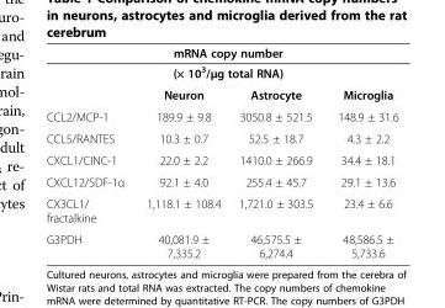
<table><thead><tr><td rowspan="2" colspan="4">mRNA copy number (× 10<sup>3</sup>/μg total RNA)</td></tr><tr></tr><tr><td></td><td>Neuron</td><td>Astrocyte</td><td>Microglia</td></tr></thead><tbody><tr><td>CCL2/MCP-1</td><td>189.9 ± 9.8</td><td>3050.8 ± 521.5</td><td>148.9 ± 31.6</td></tr><tr><td>CCL5/RANTES</td><td>10.3 ± 0.7</td><td>52.5 ± 18.7</td><td>4.3 ± 2.2</td></tr><tr><td>CXCL1/CINC-1</td><td>22.0 ± 2.2</td><td>1410.0 ± 266.9</td><td>34.4 ± 18.1</td></tr><tr><td>CXCL12/SDF-1α</td><td>92.1 ± 4.0</td><td>255.4 ± 45.7</td><td>29.1 ± 13.6</td></tr><tr><td>CX3CL1/ fractalkine</td><td>1,118.1 ± 108.4</td><td>1,721.0 ± 303.5</td><td>23.4 ± 6.6</td></tr><tr><td>G3PDH</td><td>40,081.9 ± 7,335.2</td><td>46,575.5 ± 6,274.4</td><td>48,586.5 ± 5,733.6</td></tr></tbody></table>